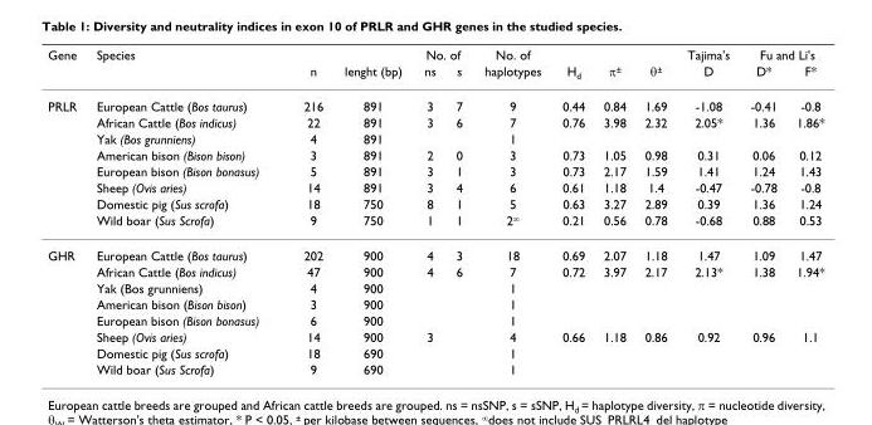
<table><thead><tr><td rowspan="2">Gene</td><td rowspan="2">Species</td><td rowspan="2">n</td><td rowspan="2">lenght (bp)</td><td colspan="2">No. of</td><td rowspan="2">No. of haplotypes</td><td rowspan="2">H<sub>d</sub></td><td rowspan="2">π<sup>±</sup></td><td rowspan="2">θ<sup>±</sup></td><td rowspan="2">Tajima&#x27;s D</td><td colspan="2">Fu and Li&#x27;s</td></tr><tr><td>ns</td><td>s</td><td>D*</td><td>F*</td></tr></thead><tbody><tr><td rowspan="8">PRLR</td><td>European Cattle (Bos taurus)</td><td>216</td><td>891</td><td>3</td><td>7</td><td>9</td><td>0.44</td><td>0.84</td><td>1.69</td><td>-1.08</td><td>-0.41</td><td>-0.8</td></tr><tr><td>African Cattle (Bos indicus)</td><td>22</td><td>891</td><td>3</td><td>6</td><td>7</td><td>0.76</td><td>3.98</td><td>2.32</td><td>2.05*</td><td>1.36</td><td>1.86*</td></tr><tr><td>Yak (Bos grunniens)</td><td>4</td><td>891</td><td></td><td></td><td>1</td><td></td><td></td><td></td><td></td><td></td><td></td></tr><tr><td>American bison (Bison bison)</td><td>3</td><td>891</td><td>2</td><td>0</td><td>3</td><td>0.73</td><td>1.05</td><td>0.98</td><td>0.31</td><td>0.06</td><td>0.12</td></tr><tr><td>European bison (Bison bonasus)</td><td>5</td><td>891</td><td>3</td><td>1</td><td>3</td><td>0.73</td><td>2.17</td><td>1.59</td><td>1.41</td><td>1.24</td><td>1.43</td></tr><tr><td>Sheep (Ovis aries)</td><td>14</td><td>891</td><td>3</td><td>4</td><td>6</td><td>0.61</td><td>1.18</td><td>1.4</td><td>-0.47</td><td>-0.78</td><td>-0.8</td></tr><tr><td>Domestic pig (Sus scrofa)</td><td>18</td><td>750</td><td>8</td><td>1</td><td>5</td><td>0.63</td><td>3.27</td><td>2.89</td><td>0.39</td><td>1.36</td><td>1.24</td></tr><tr><td>Wild boar (Sus Scrofa)</td><td>9</td><td>750</td><td>1</td><td>1</td><td>2<sup>∞</sup></td><td>0.21</td><td>0.56</td><td>0.78</td><td>-0.68</td><td>0.88</td><td>0.53</td></tr><tr><td rowspan="8">GHR</td><td>European Cattle (Bos taurus)</td><td>202</td><td>900</td><td>4</td><td>3</td><td>18</td><td>0.69</td><td>2.07</td><td>1.18</td><td>1.47</td><td>1.09</td><td>1.47</td></tr><tr><td>African Cattle (Bos indicus)</td><td>47</td><td>900</td><td>4</td><td>6</td><td>7</td><td>0.72</td><td>3.97</td><td>2.17</td><td>2.13*</td><td>1.38</td><td>1.94*</td></tr><tr><td>Yak (Bos grunniens)</td><td>4</td><td>900</td><td></td><td></td><td>1</td><td></td><td></td><td></td><td></td><td></td><td></td></tr><tr><td>American bison (Bison bison)</td><td>3</td><td>900</td><td></td><td></td><td>1</td><td></td><td></td><td></td><td></td><td></td><td></td></tr><tr><td>European bison (Bison bonasus)</td><td>6</td><td>900</td><td></td><td></td><td>1</td><td></td><td></td><td></td><td></td><td></td><td></td></tr><tr><td>Sheep (Ovis aries)</td><td>14</td><td>900</td><td>3</td><td></td><td>4</td><td>0.66</td><td>1.18</td><td>0.86</td><td>0.92</td><td>0.96</td><td>1.1</td></tr><tr><td>Domestic pig (Sus scrofa)</td><td>18</td><td>690</td><td></td><td></td><td>1</td><td></td><td></td><td></td><td></td><td></td><td></td></tr><tr><td>Wild boar (Sus Scrofa)</td><td>9</td><td>690</td><td></td><td></td><td>1</td><td></td><td></td><td></td><td></td><td></td><td></td></tr></tbody></table>